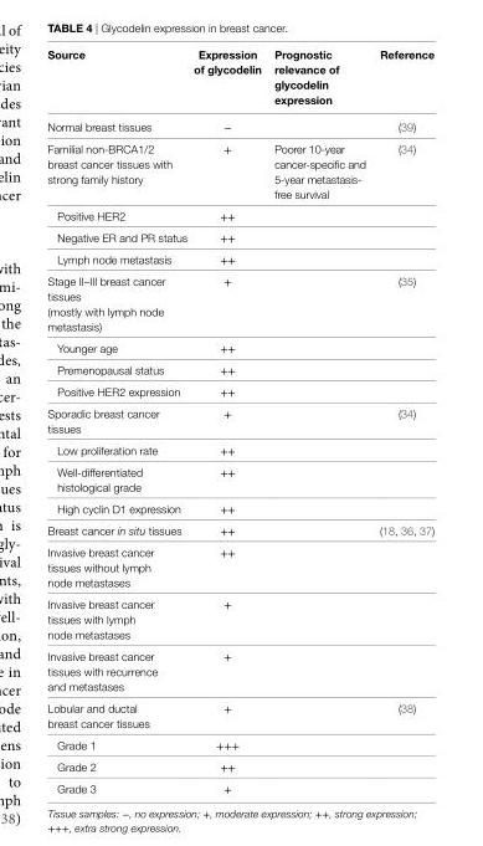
<table><thead><tr><td>Source</td><td>expression of glycodelin</td><td>Prognostic relevance of glycodelin expression</td><td>Reference</td></tr></thead><tbody><tr><td>Normal breast tissues</td><td>−</td><td></td><td>(39)</td></tr><tr><td>Familial non-BRCA1/2 breast cancer tissues with strong family history</td><td>+</td><td>Poorer 10-year cancer-specific and 5-year metastasis- free survival</td><td>(34)</td></tr><tr><td>Positive HER2</td><td>++</td><td></td><td></td></tr><tr><td>Negative ER and PR status</td><td>++</td><td></td><td></td></tr><tr><td>Lymph node metastasis</td><td>++</td><td></td><td></td></tr><tr><td>Stage II–III breast cancer tissues (mostly with lymph node metastasis)</td><td>+</td><td></td><td>(35)</td></tr><tr><td>Younger age</td><td>++</td><td></td><td></td></tr><tr><td>Premenopausal status</td><td>++</td><td></td><td></td></tr><tr><td>Positive HER2 expression</td><td>++</td><td></td><td></td></tr><tr><td>Sporadic breast cancer tissues</td><td>+</td><td></td><td>(34)</td></tr><tr><td>Low proliferation rate</td><td>++</td><td></td><td></td></tr><tr><td>Well-differentiated histological grade</td><td>++</td><td></td><td></td></tr><tr><td>High cyclin D1 expression</td><td>++</td><td></td><td></td></tr><tr><td>Breast cancer in situ tissues</td><td>++</td><td></td><td>(18, 36, 37)</td></tr><tr><td>Invasive breast cancer tissues without lymph node metastases</td><td>++</td><td></td><td></td></tr><tr><td>Invasive breast cancer tissues with lymph node metastases</td><td>+</td><td></td><td></td></tr><tr><td>Invasive breast cancer tissues with recurrence and metastases</td><td>+</td><td></td><td></td></tr><tr><td>Lobular and ductal breast cancer tissues</td><td>+</td><td></td><td>(38)</td></tr><tr><td>Grade 1</td><td>+++</td><td></td><td></td></tr><tr><td>Grade 2</td><td>++</td><td></td><td></td></tr><tr><td>Grade 3</td><td>+</td><td></td><td></td></tr></tbody></table>